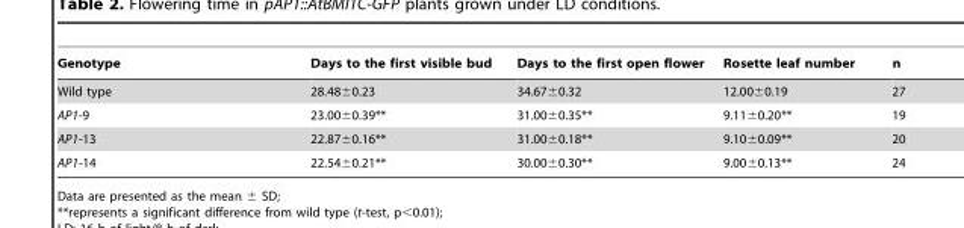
<table><thead><tr><td>Genotype</td><td>Days to the first visible bud</td><td>Days to the first open flower</td><td>Rosette leaf number</td><td>n</td></tr></thead><tbody><tr><td>Wild type</td><td>28.48±0.23</td><td>34.67±0.32</td><td>12.00±0.19</td><td>27</td></tr><tr><td>AP1-9</td><td>23.00±0.39**</td><td>31.00±0.35**</td><td>9.11±0.20**</td><td>19</td></tr><tr><td>AP1-13</td><td>22.87±0.16**</td><td>31.00±0.18**</td><td>9.10±0.09**</td><td>20</td></tr><tr><td>AP1-14</td><td>22.54±0.21**</td><td>30.00±0.30**</td><td>9.00±0.13**</td><td>24</td></tr></tbody></table>